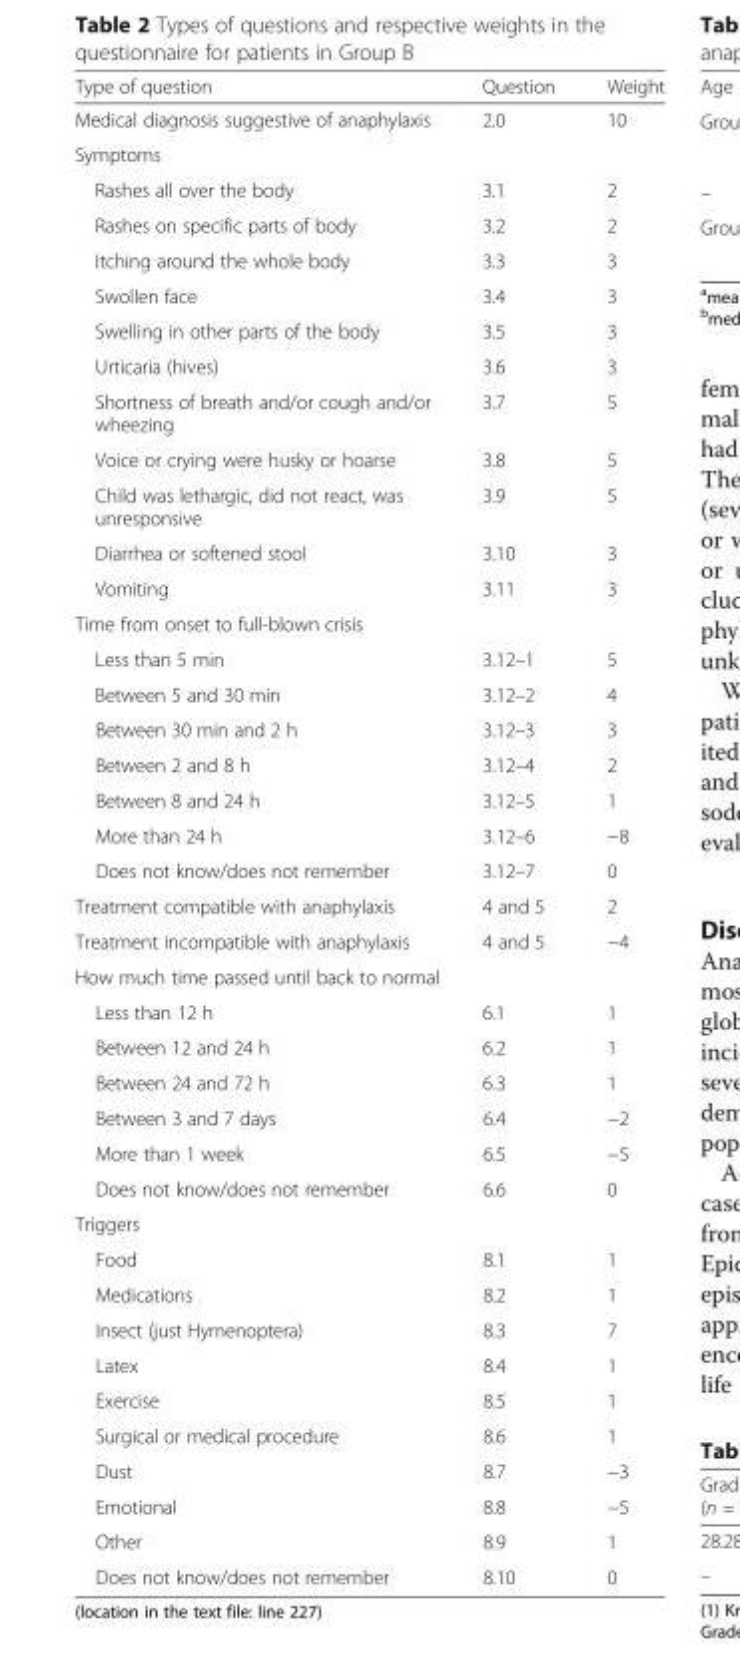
<table><thead><tr><td>Type of question</td><td>Question</td><td>Weight</td></tr></thead><tbody><tr><td>Medical diagnosis suggestive of anaphylaxis</td><td>2.0</td><td>10</td></tr><tr><td colspan="3">Symptoms</td></tr><tr><td>Rashes all over the body</td><td>3.1</td><td>2</td></tr><tr><td>Rashes on specific parts of body</td><td>3.2</td><td>2</td></tr><tr><td>Itching around the whole body</td><td>3.3</td><td>3</td></tr><tr><td>Swollen face</td><td>3.4</td><td>3</td></tr><tr><td>Swelling in other parts of the body</td><td>3.5</td><td>3</td></tr><tr><td>Urticaria (hives)</td><td>3.6</td><td>3</td></tr><tr><td>Shortness of breath and/or cough and/or wheezing</td><td>3.7</td><td>5</td></tr><tr><td>Voice or crying were husky or hoarse</td><td>3.8</td><td>5</td></tr><tr><td>Child was lethargic, did not react, was unresponsive</td><td>3.9</td><td>5</td></tr><tr><td>Diarrhea or softened stool</td><td>3.10</td><td>3</td></tr><tr><td>Vomiting</td><td>3.11</td><td>3</td></tr><tr><td colspan="3">Time from onset to full-blown crisis</td></tr><tr><td>Less than 5 min</td><td>3.12–1</td><td>5</td></tr><tr><td>Between 5 and 30 min</td><td>3.12–2</td><td>4</td></tr><tr><td>Between 30 min and 2 h</td><td>3.12–3</td><td>3</td></tr><tr><td>Between 2 and 8 h</td><td>3.12–4</td><td>2</td></tr><tr><td>Between 8 and 24 h</td><td>3.12–5</td><td>1</td></tr><tr><td>More than 24 h</td><td>3.12–6</td><td>−8</td></tr><tr><td>Does not know/does not remember</td><td>3.12–7</td><td>0</td></tr><tr><td>Treatment compatible with anaphylaxis</td><td>4 and 5</td><td>2</td></tr><tr><td>Treatment incompatible with anaphylaxis</td><td>4 and 5</td><td>−4</td></tr><tr><td colspan="3">How much time passed until back to normal</td></tr><tr><td>Less than 12 h</td><td>6.1</td><td>1</td></tr><tr><td>Between 12 and 24 h</td><td>6.2</td><td>1</td></tr><tr><td>Between 24 and 72 h</td><td>6.3</td><td>1</td></tr><tr><td>Between 3 and 7 days</td><td>6.4</td><td>−2</td></tr><tr><td>More than 1 week</td><td>6.5</td><td>−5</td></tr><tr><td>Does not know/does not remember</td><td>6.6</td><td>0</td></tr><tr><td colspan="3">Triggers</td></tr><tr><td>Food</td><td>8.1</td><td>1</td></tr><tr><td>Medications</td><td>8.2</td><td>1</td></tr><tr><td>Insect (just Hymenoptera)</td><td>8.3</td><td>7</td></tr><tr><td>Latex</td><td>8.4</td><td>1</td></tr><tr><td>Exercise</td><td>8.5</td><td>1</td></tr><tr><td>Surgical or medical procedure</td><td>8.6</td><td>1</td></tr><tr><td>Dust</td><td>8.7</td><td>−3</td></tr><tr><td>Emotional</td><td>8.8</td><td>−5</td></tr><tr><td>Other</td><td>8.9</td><td>1</td></tr><tr><td>Does not know/does not remember</td><td>8.10</td><td>0</td></tr></tbody></table>